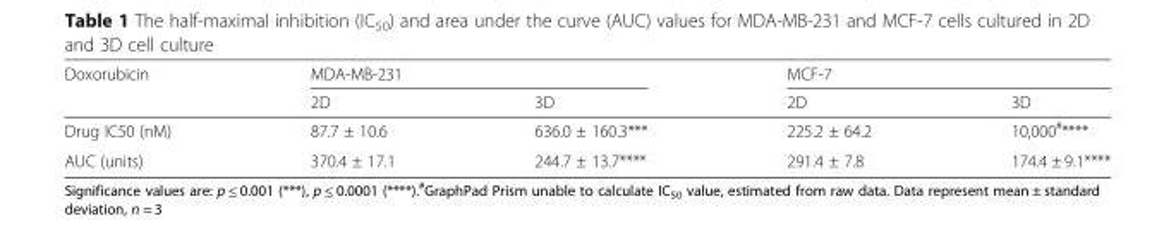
<table><thead><tr><td rowspan="2">Doxorubicin</td><td colspan="2">MDA-MB-231</td><td colspan="2">MCF-7</td></tr><tr><td>2D</td><td>3D</td><td>2D</td><td>3D</td></tr></thead><tbody><tr><td>Drug IC50 (nM)</td><td>87.7 ± 10.6</td><td>636.0 ± 160.3***</td><td>225.2 ± 64.2</td><td>10,000<sup>#</sup>****</td></tr><tr><td>AUC (units)</td><td>370.4 ± 17.1</td><td>244.7 ± 13.7****</td><td>291.4 ± 7.8</td><td>174.4 ± 9.1****</td></tr></tbody></table>